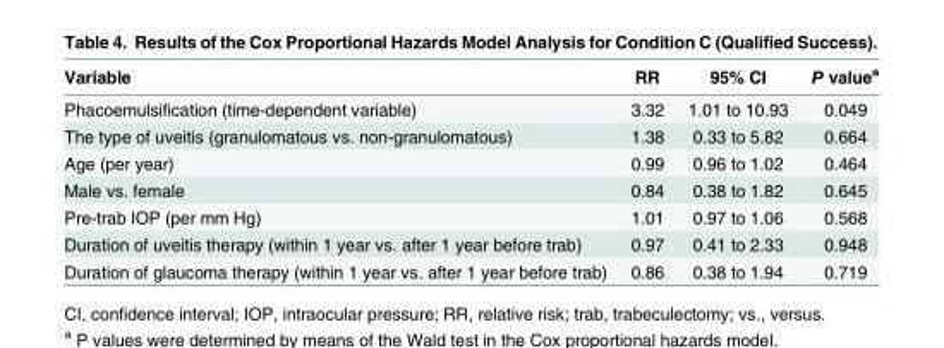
<table><thead><tr><td>Variable</td><td>RR</td><td>95% CI</td><td>P value<sup>a</sup></td></tr></thead><tbody><tr><td>Phacoemulsification (time-dependent variable)</td><td>3.32</td><td>1.01 to 10.93</td><td>0.049</td></tr><tr><td>The type of uveitis (granulomatous vs. non-granulomatous)</td><td>1.38</td><td>0.33 to 5.82</td><td>0.664</td></tr><tr><td>Age (per year)</td><td>0.99</td><td>0.96 to 1.02</td><td>0.464</td></tr><tr><td>Male vs. female</td><td>0.84</td><td>0.38 to 1.82</td><td>0.645</td></tr><tr><td>Pre-trab IOP (per mm Hg)</td><td>1.01</td><td>0.97 to 1.06</td><td>0.568</td></tr><tr><td>Duration of uveitis therapy (within 1 year vs. after 1 year before trab)</td><td>0.97</td><td>0.41 to 2.33</td><td>0.948</td></tr><tr><td>Duration of glaucoma therapy (within 1 year vs. after 1 year before trab)</td><td>0.86</td><td>0.38 to 1.94</td><td>0.719</td></tr></tbody></table>